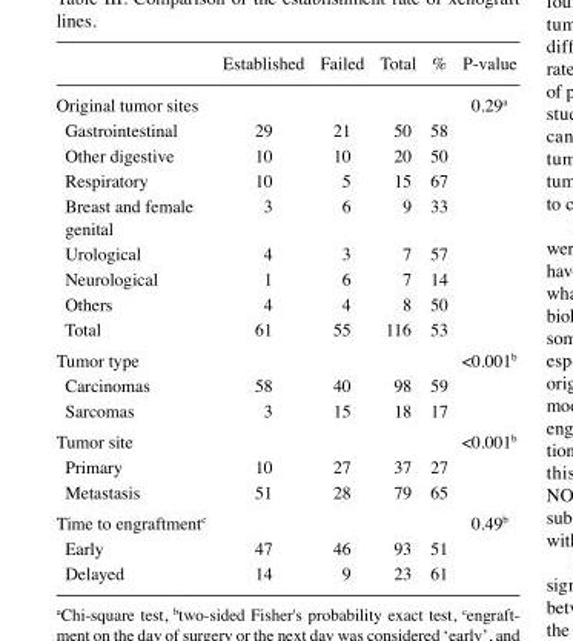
<table><thead><tr><td></td><td>Established</td><td>Failed</td><td>Total</td><td>%</td><td>P-value</td></tr></thead><tbody><tr><td>Original tumor sites</td><td></td><td></td><td></td><td></td><td>0.29<sup>a</sup></td></tr><tr><td>Gastrointestinal</td><td>29</td><td>21</td><td>50</td><td>58</td><td></td></tr><tr><td>Other digestive</td><td>10</td><td>10</td><td>20</td><td>50</td><td></td></tr><tr><td>Respiratory</td><td>10</td><td>5</td><td>15</td><td>67</td><td></td></tr><tr><td>Breast and female</td><td>3</td><td>6</td><td>9</td><td>33</td><td></td></tr><tr><td colspan="6">genital</td></tr><tr><td>Urological</td><td>4</td><td>3</td><td>7</td><td>57</td><td></td></tr><tr><td>Neurological</td><td>1</td><td>6</td><td>7</td><td>14</td><td></td></tr><tr><td>Others</td><td>4</td><td>4</td><td>8</td><td>50</td><td></td></tr><tr><td>Total</td><td>61</td><td>55</td><td>116</td><td>53</td><td></td></tr><tr><td>Tumor type</td><td></td><td></td><td></td><td></td><td>&lt;0.001<sup>b</sup></td></tr><tr><td>Carcinomas</td><td>58</td><td>40</td><td>98</td><td>59</td><td></td></tr><tr><td>Sarcomas</td><td>3</td><td>15</td><td>18</td><td>17</td><td></td></tr><tr><td>Tumor site</td><td></td><td></td><td></td><td></td><td>&lt;0.001<sup>b</sup></td></tr><tr><td>Primary</td><td>10</td><td>27</td><td>37</td><td>27</td><td></td></tr><tr><td>metastasis</td><td>51</td><td>28</td><td>79</td><td>65</td><td></td></tr><tr><td>Time to engraftment<sup>c</sup></td><td></td><td></td><td></td><td></td><td>0.49<sup>b</sup></td></tr><tr><td>Early</td><td>47</td><td>46</td><td>93</td><td>51</td><td></td></tr><tr><td>Delayed</td><td>14</td><td>9</td><td>23</td><td>61</td><td></td></tr></tbody></table>